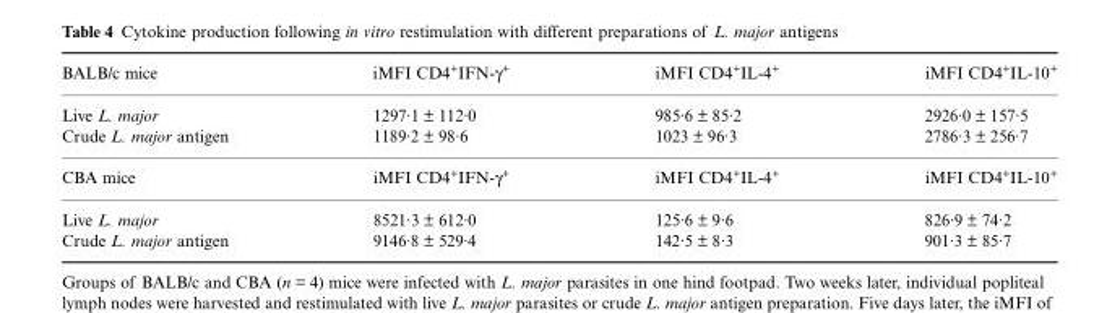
<table><thead><tr><td>BALB/c mice</td><td>iMFI CD4<sup>+</sup>IFN-γ<sup>+</sup></td><td>iMFI CD4<sup>+</sup>IL-4<sup>+</sup></td><td>iMFI CD4<sup>+</sup>IL-10<sup>+</sup></td></tr></thead><tbody><tr><td>Live L. major</td><td>1297·1 ± 112·0</td><td>985·6 ± 85·2</td><td>2926·0 ± 157·5</td></tr><tr><td>Crude L. major antigen</td><td>1189·2 ± 98·6</td><td>1023 ± 96·3</td><td>2786·3 ± 256·7</td></tr><tr><td>CBA mice</td><td>iMFI CD4<sup>+</sup>IFN-γ<sup>+</sup></td><td>iMFI CD4<sup>+</sup>IL-4<sup>+</sup></td><td>iMFI CD4<sup>+</sup>IL-10<sup>+</sup></td></tr><tr><td>Live L. major</td><td>8521·3 ± 612·0</td><td>125·6 ± 9·6</td><td>826·9 ± 74·2</td></tr><tr><td>Crude L. major antigen</td><td>9146·8 ± 529·4</td><td>142·5 ± 8·3</td><td>901·3 ± 85·7</td></tr></tbody></table>